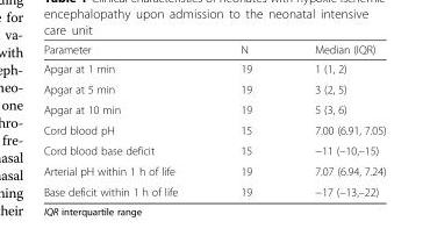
<table><thead><tr><td>Parameter</td><td>N</td><td>Median (IQR)</td></tr></thead><tbody><tr><td>Apgar at 1 min</td><td>19</td><td>1 (1, 2)</td></tr><tr><td>Apgar at 5 min</td><td>19</td><td>3 (2, 5)</td></tr><tr><td>Apgar at 10 min</td><td>19</td><td>5 (3, 6)</td></tr><tr><td>Cord blood pH</td><td>15</td><td>7.00 (6.91, 7.05)</td></tr><tr><td>Cord blood base deficit</td><td>15</td><td>−11 (–10,–15)</td></tr><tr><td>Arterial pH within 1 h of life</td><td>19</td><td>7.07 (6.94, 7.24)</td></tr><tr><td>Base deficit within 1 h of life</td><td>19</td><td>−17 (–13,–22)</td></tr></tbody></table>